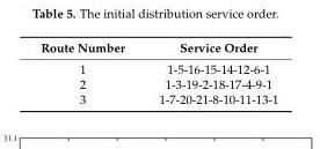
<table><thead><tr><td>Route Number</td><td>Service Order</td></tr></thead><tbody><tr><td>1</td><td>1-5-16-15-14-12-6-1</td></tr><tr><td>2</td><td>1-3-19-2-18-17-4-9-1</td></tr><tr><td>3</td><td>1-7-20-21-8-10-11-13-1</td></tr></tbody></table>